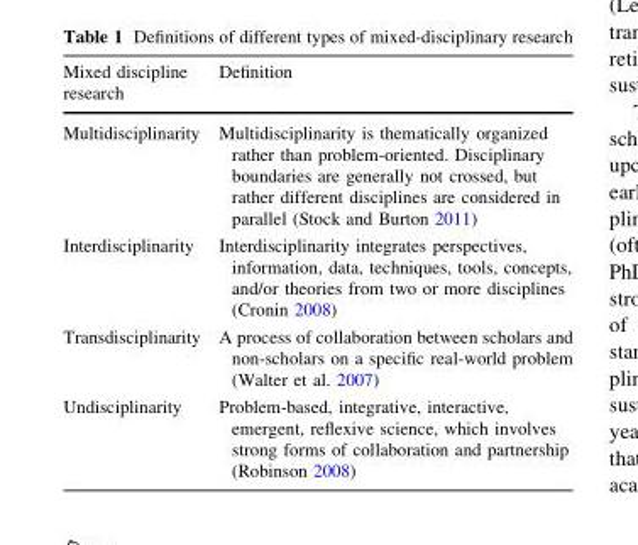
<table><thead><tr><td>Mixed discipline research</td><td>Definition</td></tr></thead><tbody><tr><td>Multidisciplinarity</td><td>Multidisciplinarity is thematically organized rather than problem-oriented. Disciplinary boundaries are generally not crossed, but rather different disciplines are considered in parallel (Stock and Burton 2011)</td></tr><tr><td>Interdisciplinarity</td><td>Interdisciplinarity integrates perspectives, information, data, techniques, tools, concepts, and/or theories from two or more disciplines (Cronin 2008)</td></tr><tr><td>Transdisciplinarity</td><td>A process of collaboration between scholars and non-scholars on a specific real-world problem (Walter et al. 2007)</td></tr><tr><td>Undisciplinarity</td><td>Problem-based, integrative, interactive, emergent, reflexive science, which involves strong forms of collaboration and partnership (Robinson 2008)</td></tr></tbody></table>